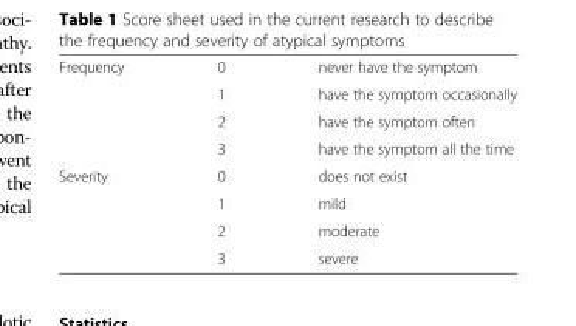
<table><tbody><tr><td rowspan="4">Frequency</td><td>0</td><td>never have the symptom</td></tr><tr><td>1</td><td>have the symptom occasionally</td></tr><tr><td>2</td><td>have the symptom often</td></tr><tr><td>3</td><td>have the symptom all the time</td></tr><tr><td rowspan="4">Severity</td><td>0</td><td>does not exist</td></tr><tr><td>1</td><td>mild</td></tr><tr><td>2</td><td>moderate</td></tr><tr><td>3</td><td>severe</td></tr></tbody></table>